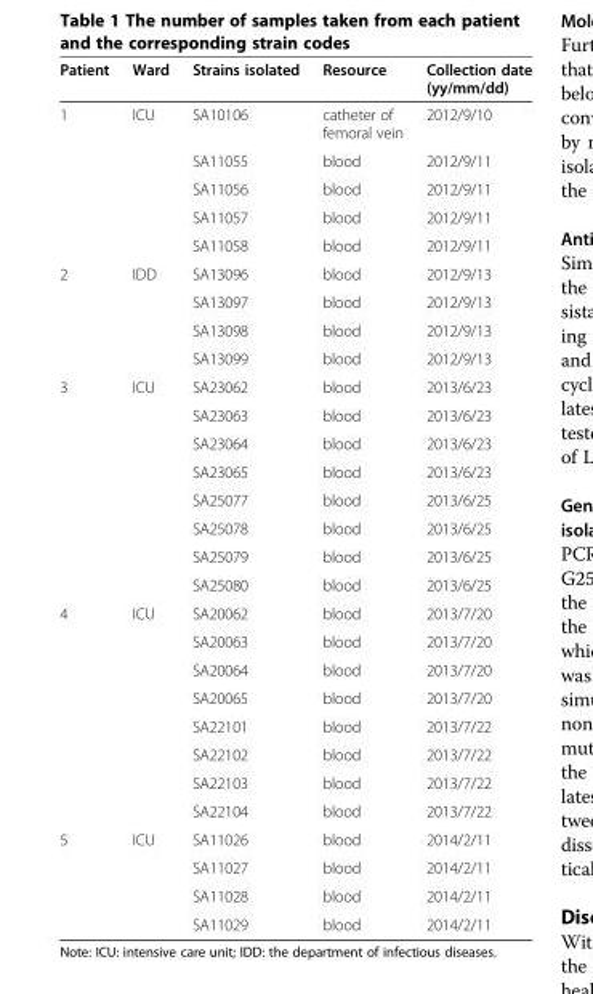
<table><thead><tr><td>Patient</td><td>Ward</td><td>Strains isolated</td><td>Resource</td><td>Collection date (yy/mm/dd)</td></tr></thead><tbody><tr><td rowspan="5">1</td><td rowspan="5">ICU</td><td>SA10106</td><td>catheter of femoral vein</td><td>2012/9/10</td></tr><tr><td>SA11055</td><td>blood</td><td>2012/9/11</td></tr><tr><td>SA11056</td><td>blood</td><td>2012/9/11</td></tr><tr><td>SA11057</td><td>blood</td><td>2012/9/11</td></tr><tr><td>SA11058</td><td>blood</td><td>2012/9/11</td></tr><tr><td rowspan="4">2</td><td rowspan="4">IDD</td><td>SA13096</td><td>blood</td><td>2012/9/13</td></tr><tr><td>SA13097</td><td>blood</td><td>2012/9/13</td></tr><tr><td>SA13098</td><td>blood</td><td>2012/9/13</td></tr><tr><td>SA13099</td><td>blood</td><td>2012/9/13</td></tr><tr><td rowspan="8">3</td><td rowspan="8">ICU</td><td>SA23062</td><td>blood</td><td>2013/6/23</td></tr><tr><td>SA23063</td><td>blood</td><td>2013/6/23</td></tr><tr><td>SA23064</td><td>blood</td><td>2013/6/23</td></tr><tr><td>SA23065</td><td>blood</td><td>2013/6/23</td></tr><tr><td>SA25077</td><td>blood</td><td>2013/6/25</td></tr><tr><td>SA25078</td><td>blood</td><td>2013/6/25</td></tr><tr><td>SA25079</td><td>blood</td><td>2013/6/25</td></tr><tr><td>SA25080</td><td>blood</td><td>2013/6/25</td></tr><tr><td rowspan="8">4</td><td rowspan="8">ICU</td><td>SA20062</td><td>blood</td><td>2013/7/20</td></tr><tr><td>SA20063</td><td>blood</td><td>2013/7/20</td></tr><tr><td>SA20064</td><td>blood</td><td>2013/7/20</td></tr><tr><td>SA20065</td><td>blood</td><td>2013/7/20</td></tr><tr><td>SA22101</td><td>blood</td><td>2013/7/22</td></tr><tr><td>SA22102</td><td>blood</td><td>2013/7/22</td></tr><tr><td>SA22103</td><td>blood</td><td>2013/7/22</td></tr><tr><td>SA22104</td><td>blood</td><td>2013/7/22</td></tr><tr><td rowspan="4">5</td><td rowspan="4">ICU</td><td>SA11026</td><td>blood</td><td>2014/2/11</td></tr><tr><td>SA11027</td><td>blood</td><td>2014/2/11</td></tr><tr><td>SA11028</td><td>blood</td><td>2014/2/11</td></tr><tr><td>SA11029</td><td>blood</td><td>2014/2/11</td></tr></tbody></table>